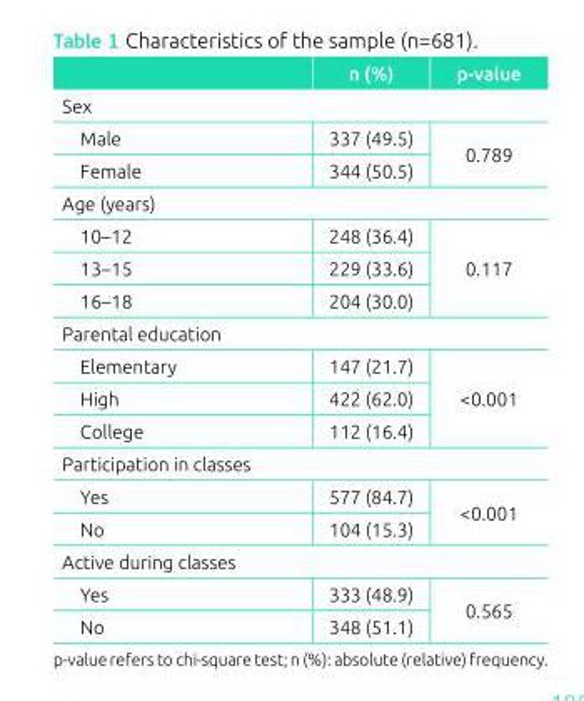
<table><thead><tr><td></td><td>n (%)</td><td>p-value</td></tr></thead><tbody><tr><td colspan="3">Sex</td></tr><tr><td>Male</td><td>337 (49.5)</td><td rowspan="2">0.789</td></tr><tr><td>Female</td><td>344 (50.5)</td></tr><tr><td colspan="3">Age (years)</td></tr><tr><td>10–12</td><td>248 (36.4)</td><td rowspan="3">0.117</td></tr><tr><td>13–15</td><td>229 (33.6)</td></tr><tr><td>16–18</td><td>204 (30.0)</td></tr><tr><td colspan="3">Parental education</td></tr><tr><td>Elementary</td><td>147 (21.7)</td><td rowspan="3">&lt;0.001</td></tr><tr><td>High</td><td>422 (62.0)</td></tr><tr><td>College</td><td>112 (16.4)</td></tr><tr><td colspan="3">Participation in classes</td></tr><tr><td>Yes</td><td>577 (84.7)</td><td rowspan="2">&lt;0.001</td></tr><tr><td>No</td><td>104 (15.3)</td></tr><tr><td colspan="3">Active during classes</td></tr><tr><td>Yes</td><td>333 (48.9)</td><td rowspan="2">0.565</td></tr><tr><td>No</td><td>348 (51.1)</td></tr></tbody></table>